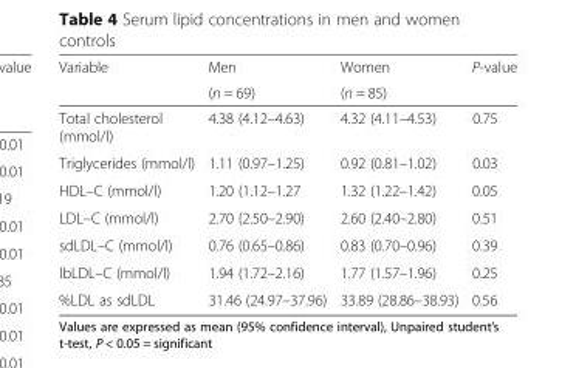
<table><thead><tr><td rowspan="2">Variable</td><td rowspan="2">Men (n = 69)</td><td rowspan="2">Women (n = 85)</td><td rowspan="2">P-value</td></tr><tr></tr></thead><tbody><tr><td>Total cholesterol (mmol/l)</td><td>4.38 (4.12–4.63)</td><td>4.32 (4.11–4.53)</td><td>0.75</td></tr><tr><td>Triglycerides (mmol/l)</td><td>1.11 (0.97–1.25)</td><td>0.92 (0.81–1.02)</td><td>0.03</td></tr><tr><td>HDL–C (mmol/l)</td><td>1.20 (1.12–1.27</td><td>1.32 (1.22–1.42)</td><td>0.05</td></tr><tr><td>LDL–C (mmol/l)</td><td>2.70 (2.50–2.90)</td><td>2.60 (2.40–2.80)</td><td>0.51</td></tr><tr><td>sdLDL–C (mmol/l)</td><td>0.76 (0.65–0.86)</td><td>0.83 (0.70–0.96)</td><td>0.39</td></tr><tr><td>lbLDL–C (mmol/l)</td><td>1.94 (1.72–2.16)</td><td>1.77 (1.57–1.96)</td><td>0.25</td></tr><tr><td>%LDL as sdLDL</td><td>31.46 (24.97–37.96)</td><td>33.89 (28.86–38.93)</td><td>0.56</td></tr></tbody></table>